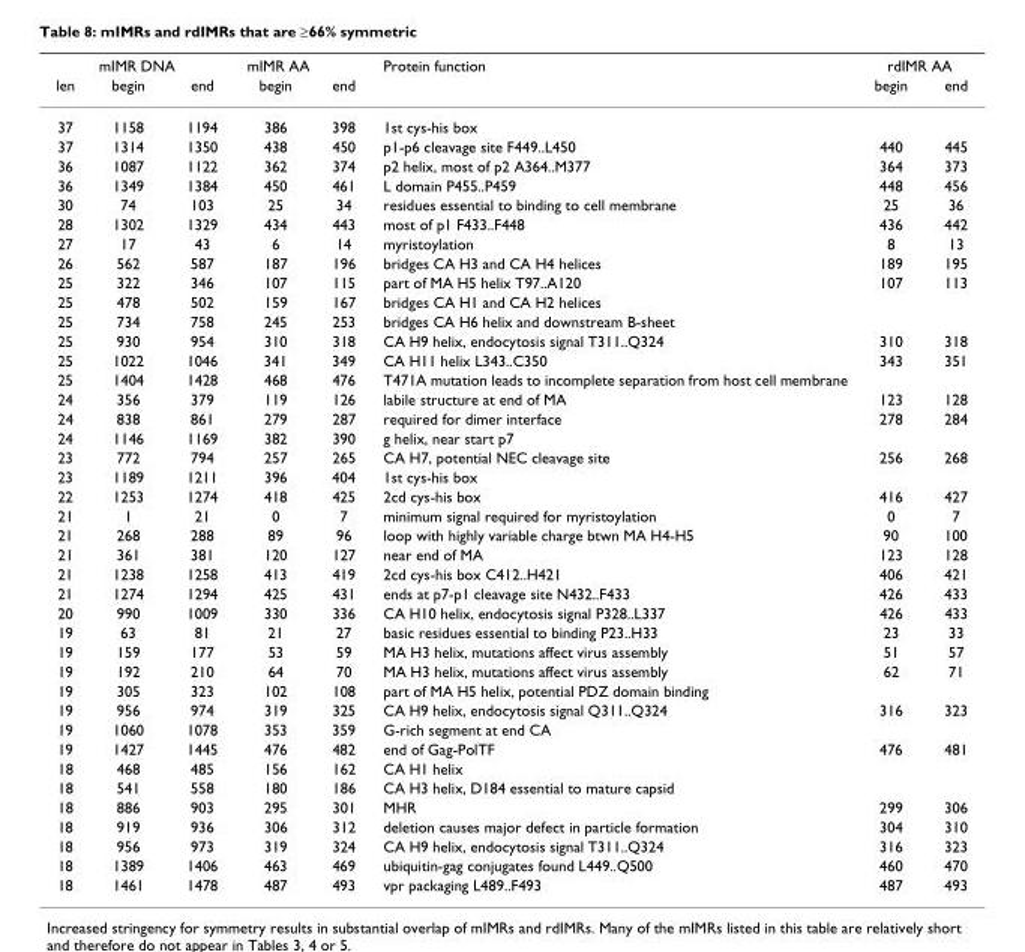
<table><thead><tr><td rowspan="2">len</td><td colspan="2">mIMR DNA</td><td colspan="2">mIMR AA</td><td rowspan="2">Protein function</td><td colspan="2">rdIMR AA</td></tr><tr><td>begin</td><td>end</td><td>begin</td><td>end</td><td>begin</td><td>end</td></tr></thead><tbody><tr><td>37</td><td>1158</td><td>1194</td><td>386</td><td>398</td><td>1st cys-his box</td><td></td><td></td></tr><tr><td>37</td><td>1314</td><td>1350</td><td>438</td><td>450</td><td>p1-p6 cleavage site F449..L450</td><td>440</td><td>445</td></tr><tr><td>36</td><td>1087</td><td>1122</td><td>362</td><td>374</td><td>p2 helix, most of p2 A364..M377</td><td>364</td><td>373</td></tr><tr><td>36</td><td>1349</td><td>1384</td><td>450</td><td>461</td><td>L domain P455..P459</td><td>448</td><td>456</td></tr><tr><td>30</td><td>74</td><td>103</td><td>25</td><td>34</td><td>residues essential to binding to cell membrane</td><td>25</td><td>36</td></tr><tr><td>28</td><td>1302</td><td>1329</td><td>434</td><td>443</td><td>most of p1 F433..F448</td><td>436</td><td>442</td></tr><tr><td>27</td><td>17</td><td>43</td><td>6</td><td>14</td><td>myristoylation</td><td>8</td><td>13</td></tr><tr><td>26</td><td>562</td><td>587</td><td>187</td><td>196</td><td>bridges CA H3 and CA H4 helices</td><td>189</td><td>195</td></tr><tr><td>25</td><td>322</td><td>346</td><td>107</td><td>115</td><td>part of MA H5 helix T97..A120</td><td>107</td><td>113</td></tr><tr><td>25</td><td>478</td><td>502</td><td>159</td><td>167</td><td>bridges CA H1 and CA H2 helices</td><td></td><td></td></tr><tr><td>25</td><td>734</td><td>758</td><td>245</td><td>253</td><td>bridges CA H6 helix and downstream B-sheet</td><td></td><td></td></tr><tr><td>25</td><td>930</td><td>954</td><td>310</td><td>318</td><td>CA H9 helix, endocytosis signal T311..Q324</td><td>310</td><td>318</td></tr><tr><td>25</td><td>1022</td><td>1046</td><td>341</td><td>349</td><td>CA H11 helix L343..C350</td><td>343</td><td>351</td></tr><tr><td>25</td><td>1404</td><td>1428</td><td>468</td><td>476</td><td>T471A mutation leads to incomplete separation from host cell membrane</td><td></td><td></td></tr><tr><td>24</td><td>356</td><td>379</td><td>119</td><td>126</td><td>labile structure at end of MA</td><td>123</td><td>128</td></tr><tr><td>24</td><td>838</td><td>861</td><td>279</td><td>287</td><td>required for dimer interface</td><td>278</td><td>284</td></tr><tr><td>24</td><td>1146</td><td>1169</td><td>382</td><td>390</td><td>g helix, near start p7</td><td></td><td></td></tr><tr><td>23</td><td>772</td><td>794</td><td>257</td><td>265</td><td>CA H7, potential NEC cleavage site</td><td>256</td><td>268</td></tr><tr><td>23</td><td>1189</td><td>1211</td><td>396</td><td>404</td><td>1st cys-his box</td><td></td><td></td></tr><tr><td>22</td><td>1253</td><td>1274</td><td>418</td><td>425</td><td>2cd cys-his box</td><td>416</td><td>427</td></tr><tr><td>21</td><td>1</td><td>21</td><td>0</td><td>7</td><td>minimum signal required for myristoylation</td><td>0</td><td>7</td></tr><tr><td>21</td><td>268</td><td>288</td><td>89</td><td>96</td><td>loop with highly variable charge btwn MA H4-H5</td><td>90</td><td>100</td></tr><tr><td>21</td><td>361</td><td>381</td><td>120</td><td>127</td><td>near end of MA</td><td>123</td><td>128</td></tr><tr><td>21</td><td>1238</td><td>1258</td><td>413</td><td>419</td><td>2cd cys-his box C412..H421</td><td>406</td><td>421</td></tr><tr><td>21</td><td>1274</td><td>1294</td><td>425</td><td>431</td><td>ends at p7-p1 cleavage site N432..F433</td><td>426</td><td>433</td></tr><tr><td>20</td><td>990</td><td>1009</td><td>330</td><td>336</td><td>CA H10 helix, endocytosis signal P328..L337</td><td>426</td><td>433</td></tr><tr><td>19</td><td>63</td><td>81</td><td>21</td><td>27</td><td>basic residues essential to binding P23..H33</td><td>23</td><td>33</td></tr><tr><td>19</td><td>159</td><td>177</td><td>53</td><td>59</td><td>MA H3 helix, mutations affect virus assembly</td><td>51</td><td>57</td></tr><tr><td>19</td><td>192</td><td>210</td><td>64</td><td>70</td><td>MA H3 helix, mutations affect virus assembly</td><td>62</td><td>71</td></tr><tr><td>19</td><td>305</td><td>323</td><td>102</td><td>108</td><td>part of MA H5 helix, potential PDZ domain binding</td><td></td><td></td></tr><tr><td>19</td><td>956</td><td>974</td><td>319</td><td>325</td><td>CA H9 helix, endocytosis signal Q311..Q324</td><td>316</td><td>323</td></tr><tr><td>19</td><td>1060</td><td>1078</td><td>353</td><td>359</td><td>G-rich segment at end CA</td><td></td><td></td></tr><tr><td>19</td><td>1427</td><td>1445</td><td>476</td><td>482</td><td>end of Gag-PolTF</td><td>476</td><td>481</td></tr><tr><td>18</td><td>468</td><td>485</td><td>156</td><td>162</td><td>CA H1 helix</td><td></td><td></td></tr><tr><td>18</td><td>541</td><td>558</td><td>180</td><td>186</td><td>CA H3 helix, D184 essential to mature capsid</td><td></td><td></td></tr><tr><td>18</td><td>886</td><td>903</td><td>295</td><td>301</td><td>MHR</td><td>299</td><td>306</td></tr><tr><td>18</td><td>919</td><td>936</td><td>306</td><td>312</td><td>deletion causes major defect in particle formation</td><td>304</td><td>310</td></tr><tr><td>18</td><td>956</td><td>973</td><td>319</td><td>324</td><td>CA H9 helix, endocytosis signal T311..Q324</td><td>316</td><td>323</td></tr><tr><td>18</td><td>1389</td><td>1406</td><td>463</td><td>469</td><td>ubiquitin-gag conjugates found L449..Q500</td><td>460</td><td>470</td></tr><tr><td>18</td><td>1461</td><td>1478</td><td>487</td><td>493</td><td>vpr packaging L489..F493</td><td>487</td><td>493</td></tr></tbody></table>